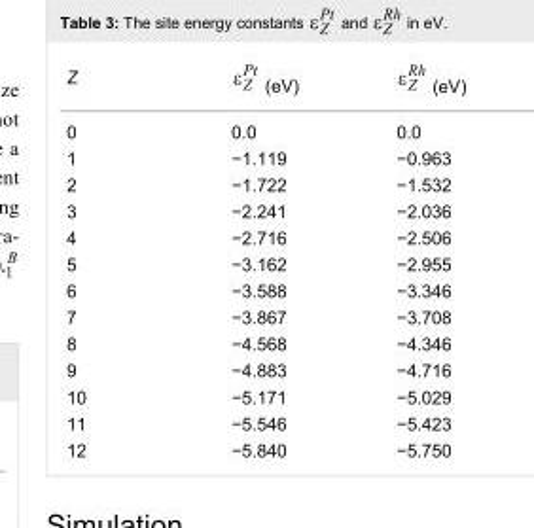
<table><tbody><tr><td>Z</td><td>(eV)</td><td>(eV)</td></tr><tr><td>0</td><td>0.0</td><td>0.0</td></tr><tr><td>1</td><td>−1.119</td><td>−0.963</td></tr><tr><td>2</td><td>−1.722</td><td>−1.532</td></tr><tr><td>3</td><td>−2.241</td><td>−2.036</td></tr><tr><td>4</td><td>−2.716</td><td>−2.506</td></tr><tr><td>5</td><td>−3.162</td><td>−2.955</td></tr><tr><td>6</td><td>−3.588</td><td>−3.346</td></tr><tr><td>7</td><td>−3.867</td><td>−3.708</td></tr><tr><td>8</td><td>−4.568</td><td>−4.346</td></tr><tr><td>9</td><td>−4.883</td><td>−4.716</td></tr><tr><td>10</td><td>−5.171</td><td>−5.029</td></tr><tr><td>11</td><td>−5.546</td><td>−5.423</td></tr><tr><td>12</td><td>−5.840</td><td>−5.750</td></tr></tbody></table>